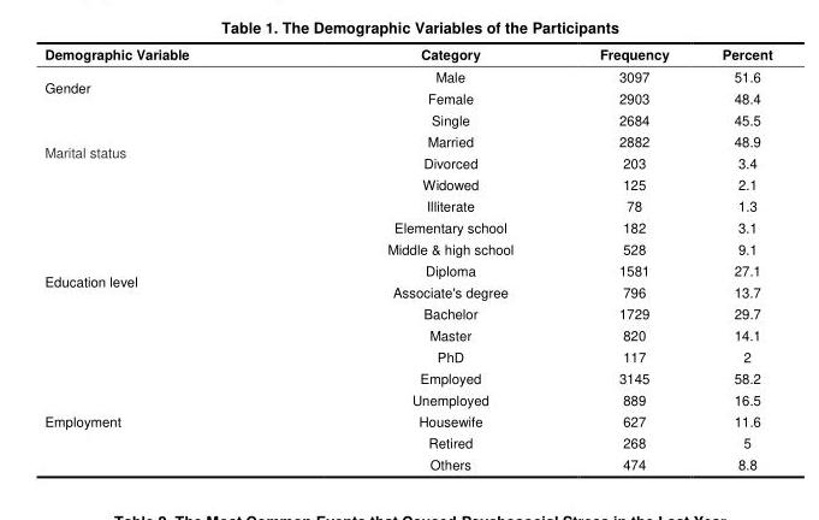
<table><thead><tr><td>Demographic Variable</td><td>Category</td><td>Frequency</td><td>Percent</td></tr></thead><tbody><tr><td rowspan="2">Gender</td><td>Male</td><td>3097</td><td>51.6</td></tr><tr><td>Female</td><td>2903</td><td>48.4</td></tr><tr><td rowspan="4">Marital status</td><td>Single</td><td>2684</td><td>45.5</td></tr><tr><td>Married</td><td>2882</td><td>48.9</td></tr><tr><td>Divorced</td><td>203</td><td>3.4</td></tr><tr><td>Widowed</td><td>125</td><td>2.1</td></tr><tr><td rowspan="8">Education level</td><td>Illiterate</td><td>78</td><td>1.3</td></tr><tr><td>Elementary school</td><td>182</td><td>3.1</td></tr><tr><td>Middle &amp; high school</td><td>528</td><td>9.1</td></tr><tr><td>Diploma</td><td>1581</td><td>27.1</td></tr><tr><td>Associate&#x27;s degree</td><td>796</td><td>13.7</td></tr><tr><td>Bachelor</td><td>1729</td><td>29.7</td></tr><tr><td>Master</td><td>820</td><td>14.1</td></tr><tr><td>PhD</td><td>117</td><td>2</td></tr><tr><td rowspan="5">Employment</td><td>Employed</td><td>3145</td><td>58.2</td></tr><tr><td>Unemployed</td><td>889</td><td>16.5</td></tr><tr><td>Housewife</td><td>627</td><td>11.6</td></tr><tr><td>Retired</td><td>268</td><td>5</td></tr><tr><td>Others</td><td>474</td><td>8.8</td></tr></tbody></table>